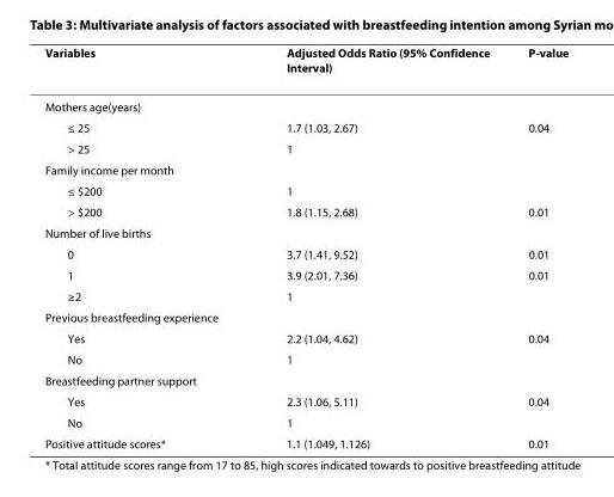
<table><thead><tr><td>Variables</td><td>Adjusted Odds Ratio (95% Confidence Interval)</td><td>P-value</td></tr></thead><tbody><tr><td colspan="3">Mothers age(years)</td></tr><tr><td>≤ 25</td><td>1.7 (1.03, 2.67)</td><td>0.04</td></tr><tr><td>&gt; 25</td><td>1</td><td></td></tr><tr><td colspan="3">Family income per month</td></tr><tr><td>≤ $200</td><td>1</td><td></td></tr><tr><td>&gt; $200</td><td>1.8 (1.15, 2.68)</td><td>0.01</td></tr><tr><td colspan="3">Number of live births</td></tr><tr><td>0</td><td>3.7 (1.41, 9.52)</td><td>0.01</td></tr><tr><td>1</td><td>3.9 (2.01, 7.36)</td><td>0.01</td></tr><tr><td>≥2</td><td>1</td><td></td></tr><tr><td colspan="3">Previous breastfeeding experience</td></tr><tr><td>Yes</td><td>2.2 (1.04, 4.62)</td><td>0.04</td></tr><tr><td>No</td><td>1</td><td></td></tr><tr><td colspan="3">Breastfeeding partner support</td></tr><tr><td>Yes</td><td>2.3 (1.06, 5.11)</td><td>0.04</td></tr><tr><td>No</td><td>1</td><td></td></tr><tr><td>Positive attitude scores*</td><td>1.1 (1.049, 1.126)</td><td>0.01</td></tr></tbody></table>